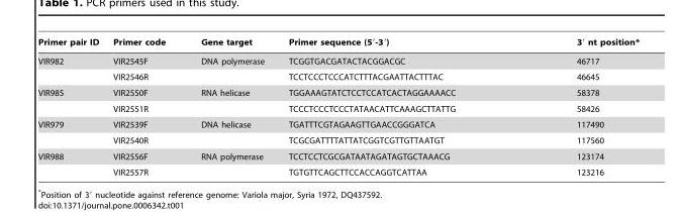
<table><thead><tr><td>Primer pair ID</td><td>Primer code</td><td>Gene target</td><td>Primer sequence (5′-3′)</td><td>3′ nt position*</td></tr></thead><tbody><tr><td rowspan="2">VIR982</td><td>VIR2545F</td><td>DNA polymerase</td><td>TCGGTGACGATACTACGGACGC</td><td>46717</td></tr><tr><td>VIR2546R</td><td></td><td>TCCTCCCTCCCATCTTTACGAATTACTTTAC</td><td>46645</td></tr><tr><td rowspan="2">VIR985</td><td>VIR2550F</td><td>RNA helicase</td><td>TGGAAAGTATCTCCTCCATCACTAGGAAAACC</td><td>58378</td></tr><tr><td>VIR2551R</td><td></td><td>TCCCTCCCTCCCTATAACATTCAAAGCTTATTG</td><td>58426</td></tr><tr><td rowspan="2">VIR979</td><td>VIR2539F</td><td>DNA helicase</td><td>TGATTTCGTAGAAGTTGAACCGGGATCA</td><td>117490</td></tr><tr><td>VIR2540R</td><td></td><td>TCGCGATTTTATTATCGGTCGTTGTTAATGT</td><td>117560</td></tr><tr><td rowspan="2">VIR988</td><td>VIR2556F</td><td>RNA polymerase</td><td>TCCTCCTCGCGATAATAGATAGTGCTAAACG</td><td>123174</td></tr><tr><td>VIR2557R</td><td></td><td>TGTGTTCAGCTTCCACCAGGTCATTAA</td><td>123216</td></tr></tbody></table>